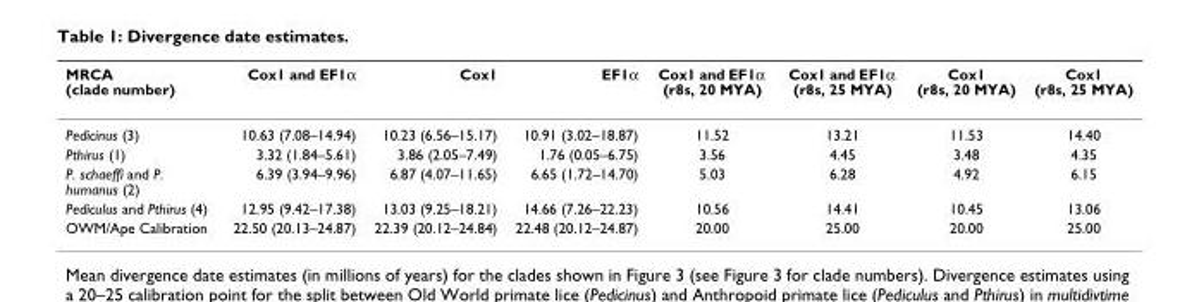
<table><thead><tr><td>MRCA (clade number)</td><td>Cox1 and EF1α</td><td>Cox1</td><td>EF1α</td><td>Cox1 and EF1α (r8s, 20 MYA)</td><td>Cox1 and EF1α (r8s, 25 MYA)</td><td>Cox1 (r8s, 20 MYA)</td><td>Cox1 (r8s, 25 MYA)</td></tr></thead><tbody><tr><td>Pedicinus (3)</td><td>10.63 (7.08–14.94)</td><td>10.23 (6.56–15.17)</td><td>10.91 (3.02–18.87)</td><td>11.52</td><td>13.21</td><td>11.53</td><td>14.40</td></tr><tr><td>Pthirus (1)</td><td>3.32 (1.84–5.61)</td><td>3.86 (2.05–7.49)</td><td>1.76 (0.05–6.75)</td><td>3.56</td><td>4.45</td><td>3.48</td><td>4.35</td></tr><tr><td>P. schaeffi and P. humanus (2)</td><td>6.39 (3.94–9.96)</td><td>6.87 (4.07–11.65)</td><td>6.65 (1.72–14.70)</td><td>5.03</td><td>6.28</td><td>4.92</td><td>6.15</td></tr><tr><td>Pediculus and Pthirus (4)</td><td>12.95 (9.42–17.38)</td><td>13.03 (9.25–18.21)</td><td>14.66 (7.26–22.23)</td><td>10.56</td><td>14.41</td><td>10.45</td><td>13.06</td></tr><tr><td>OWM/Ape Calibration</td><td>22.50 (20.13–24.87)</td><td>22.39 (20.12–24.84)</td><td>22.48 (20.12–24.87)</td><td>20.00</td><td>25.00</td><td>20.00</td><td>25.00</td></tr></tbody></table>